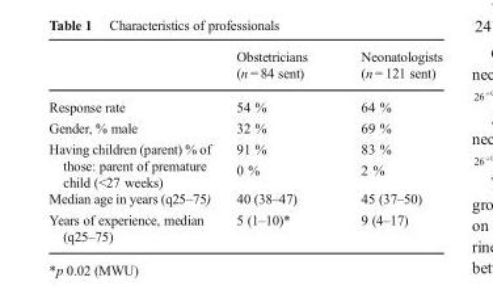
<table><thead><tr><td></td><td>Obstetricians (n = 84 sent)</td><td>Neonatologists (n = 121 sent)</td></tr></thead><tbody><tr><td>Response rate</td><td>54 %</td><td>64 %</td></tr><tr><td>Gender, % male</td><td>32 %</td><td>69 %</td></tr><tr><td rowspan="2">Having children (parent) % of those: parent of premature child (&lt;27 weeks)</td><td>91 %</td><td>83 %</td></tr><tr><td>0 %</td><td>2 %</td></tr><tr><td>Median age in years (q25–75)</td><td>40 (38–47)</td><td>45 (37–50)</td></tr><tr><td>Years of experience, median (q25–75)</td><td>5 (1–10)*</td><td>9 (4–17)</td></tr></tbody></table>